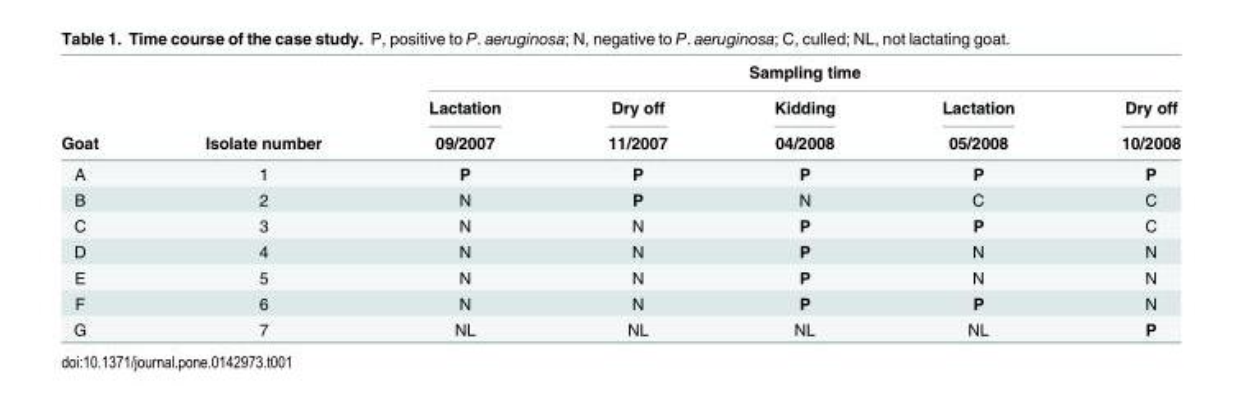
<table><thead><tr><td rowspan="3">Goat</td><td rowspan="3">Isolate number</td><td colspan="5">Sampling time</td></tr><tr><td rowspan="2">Lactation 09/2007</td><td rowspan="2">Dry off 11/2007</td><td rowspan="2">Kidding 04/2008</td><td rowspan="2">Lactation 05/2008</td><td rowspan="2">Dry off 10/2008</td></tr><tr></tr></thead><tbody><tr><td>A</td><td>1</td><td>P</td><td>P</td><td>P</td><td>P</td><td>P</td></tr><tr><td>B</td><td>2</td><td>N</td><td>P</td><td>N</td><td>C</td><td>C</td></tr><tr><td>C</td><td>3</td><td>N</td><td>N</td><td>P</td><td>P</td><td>C</td></tr><tr><td>D</td><td>4</td><td>N</td><td>N</td><td>P</td><td>N</td><td>N</td></tr><tr><td>E</td><td>5</td><td>N</td><td>N</td><td>P</td><td>N</td><td>N</td></tr><tr><td>F</td><td>6</td><td>N</td><td>N</td><td>P</td><td>P</td><td>N</td></tr><tr><td>G</td><td>7</td><td>NL</td><td>NL</td><td>NL</td><td>NL</td><td>P</td></tr></tbody></table>